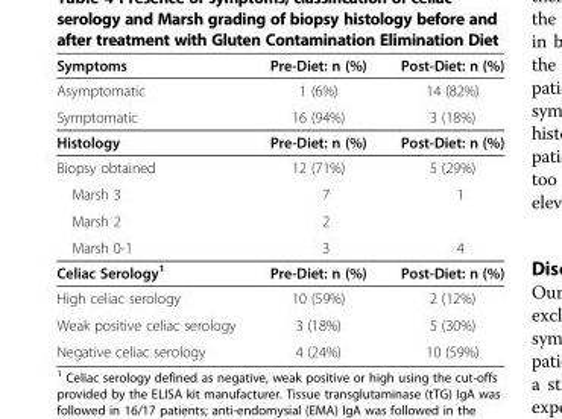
<table><tbody><tr><td>Symptoms</td><td>Pre-Diet: n (%)</td><td>Post-Diet: n (%)</td></tr><tr><td>Asymptomatic</td><td>1 (6%)</td><td>14 (82%)</td></tr><tr><td>Symptomatic</td><td>16 (94%)</td><td>3 (18%)</td></tr><tr><td>Histology</td><td>Pre-Diet: n (%)</td><td>Post-Diet: n (%)</td></tr><tr><td>Biopsy obtained</td><td>12 (71%)</td><td>5 (29%)</td></tr><tr><td>Marsh 3</td><td>7</td><td>1</td></tr><tr><td>Marsh 2</td><td>2</td><td></td></tr><tr><td>Marsh 0-1</td><td>3</td><td>4</td></tr><tr><td>Celiac Serology<sup>1</sup></td><td>Pre-Diet: n (%)</td><td>Post-Diet: n (%)</td></tr><tr><td>High celiac serology</td><td>10 (59%)</td><td>2 (12%)</td></tr><tr><td>Weak positive celiac serology</td><td>3 (18%)</td><td>5 (30%)</td></tr><tr><td>Negative celiac serology</td><td>4 (24%)</td><td>10 (59%)</td></tr></tbody></table>